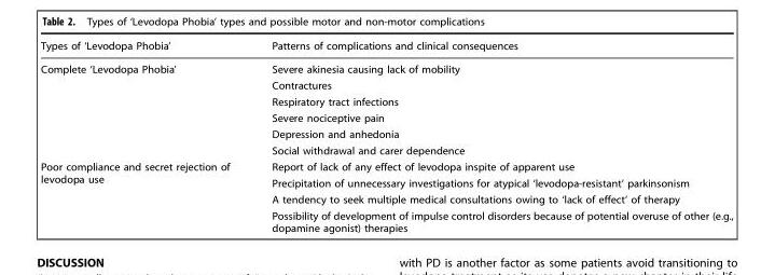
<table><thead><tr><td>Types of ‘Levodopa Phobia’</td><td>Patterns of complications and clinical consequences</td></tr></thead><tbody><tr><td rowspan="6">Complete ‘Levodopa Phobia’</td><td>Severe akinesia causing lack of mobility</td></tr><tr><td>Contractures</td></tr><tr><td>Respiratory tract infections</td></tr><tr><td>Severe nociceptive pain</td></tr><tr><td>Depression and anhedonia</td></tr><tr><td>Social withdrawal and carer dependence</td></tr><tr><td rowspan="4">Poor compliance and secret rejection of levodopa use</td><td>Report of lack of any effect of levodopa inspite of apparent use</td></tr><tr><td>Precipitation of unnecessary investigations for atypical ‘levodopa-resistant’ parkinsonism</td></tr><tr><td>A tendency to seek multiple medical consultations owing to ‘lack of effect’ of therapy</td></tr><tr><td>Possibility of development of impulse control disorders because of potential overuse of other (e.g., dopamine agonist) therapies</td></tr></tbody></table>